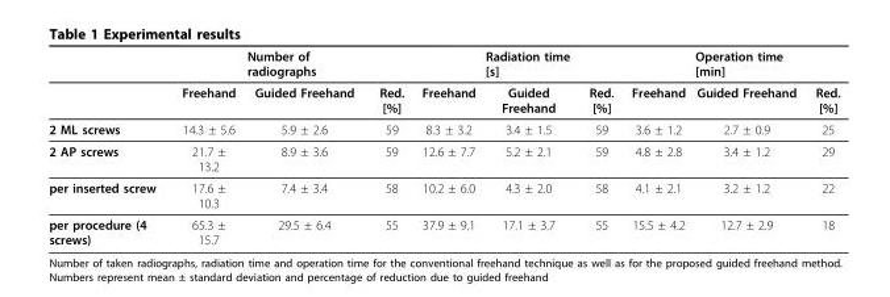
<table><thead><tr><td></td><td></td><td>Number of radiographs</td><td></td><td></td><td>Radiation time [s]</td><td></td><td></td><td>Operation time [min]</td><td></td></tr></thead><tbody><tr><td></td><td>Freehand</td><td>Guided Freehand</td><td>Red. [%]</td><td>Freehand</td><td>Guided Freehand</td><td>Red. [%]</td><td>Freehand</td><td>Guided Freehand</td><td>Red. [%]</td></tr><tr><td>2 ML screws</td><td>14.3 ± 5.6</td><td>5.9 ± 2.6</td><td>59</td><td>8.3 ± 3.2</td><td>3.4 ± 1.5</td><td>59</td><td>3.6 ± 1.2</td><td>2.7 ± 0.9</td><td>25</td></tr><tr><td>2 AP screws</td><td>21.7 ± 13.2</td><td>8.9 ± 3.6</td><td>59</td><td>12.6 ± 7.7</td><td>5.2 ± 2.1</td><td>59</td><td>4.8 ± 2.8</td><td>3.4 ± 1.2</td><td>29</td></tr><tr><td>per inserted screw</td><td>17.6 ± 10.3</td><td>7.4 ± 3.4</td><td>58</td><td>10.2 ± 6.0</td><td>4.3 ± 2.0</td><td>58</td><td>4.1 ± 2.1</td><td>3.2 ± 1.2</td><td>22</td></tr><tr><td>per procedure (4 screws)</td><td>65.3 ± 15.7</td><td>29.5 ± 6.4</td><td>55</td><td>37.9 ± 9.1</td><td>17.1 ± 3.7</td><td>55</td><td>15.5 ± 4.2</td><td>12.7 ± 2.9</td><td>18</td></tr></tbody></table>